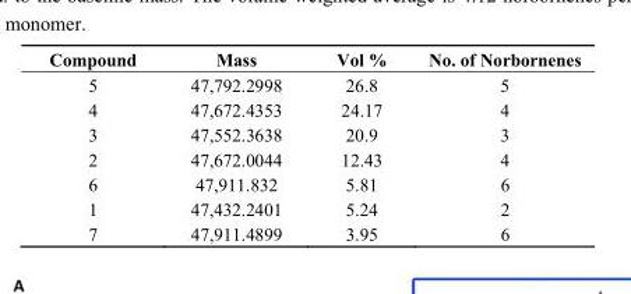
<table><thead><tr><td>Compound</td><td>Mass</td><td>Vol %</td><td>No. of Norbornenes</td></tr></thead><tbody><tr><td>5</td><td>47,792.2998</td><td>26.8</td><td>5</td></tr><tr><td>4</td><td>47,672.4353</td><td>24.17</td><td>4</td></tr><tr><td>3</td><td>47,552.3638</td><td>20.9</td><td>3</td></tr><tr><td>2</td><td>47,672.0044</td><td>12.43</td><td>4</td></tr><tr><td>6</td><td>47,911.832</td><td>5.81</td><td>6</td></tr><tr><td>1</td><td>47,432.2401</td><td>5.24</td><td>2</td></tr><tr><td>7</td><td>47,911.4899</td><td>3.95</td><td>6</td></tr></tbody></table>